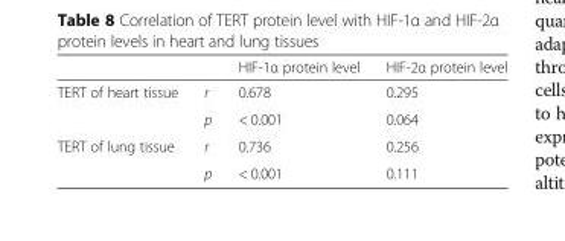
<table><thead><tr><td></td><td></td><td>HIF-1α protein level</td><td>HIF-2α protein level</td></tr></thead><tbody><tr><td rowspan="2">TERT of heart tissue</td><td>r</td><td>0.678</td><td>0.295</td></tr><tr><td>p</td><td>&lt; 0.001</td><td>0.064</td></tr><tr><td rowspan="2">TERT of lung tissue</td><td>r</td><td>0.736</td><td>0.256</td></tr><tr><td>p</td><td>&lt; 0.001</td><td>0.111</td></tr></tbody></table>